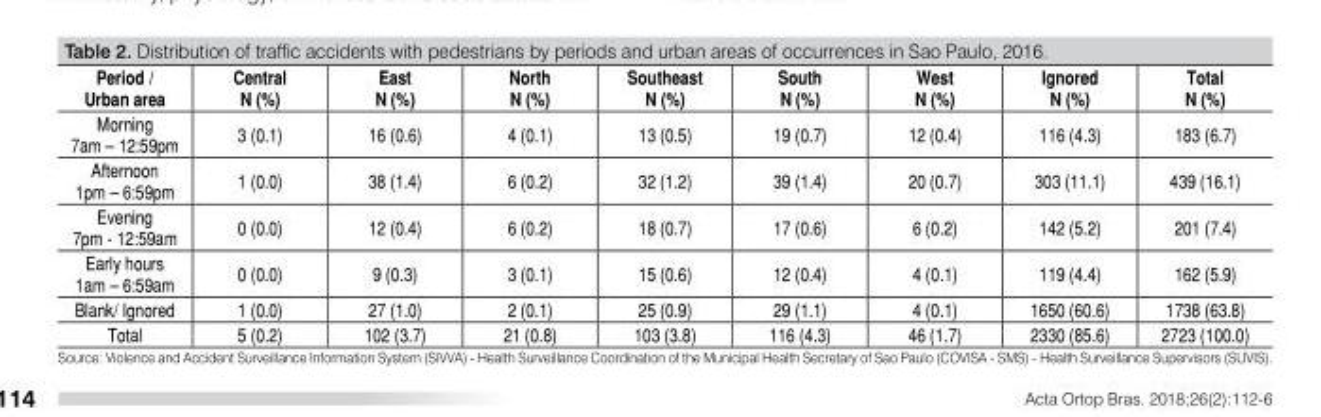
<table><thead><tr><td>Period / Urban area</td><td>Central N (%)</td><td>East N (%)</td><td>North N (%)</td><td>Southeast N (%)</td><td>South N (%)</td><td>West N (%)</td><td>Ignored N (%)</td><td>Total N (%)</td></tr></thead><tbody><tr><td>Morning 7am – 12:59pm</td><td>3 (0.1)</td><td>16 (0.6)</td><td>4 (0.1)</td><td>13 (0.5)</td><td>19 (0.7)</td><td>12 (0.4)</td><td>116 (4.3)</td><td>183 (6.7)</td></tr><tr><td>Afternoon 1pm – 6:59pm</td><td>1 (0.0)</td><td>38 (1.4)</td><td>6 (0.2)</td><td>32 (1.2)</td><td>39 (1.4)</td><td>20 (0.7)</td><td>303 (11.1)</td><td>439 (16.1)</td></tr><tr><td>Evening 7pm - 12:59am</td><td>0 (0.0)</td><td>12 (0.4)</td><td>6 (0.2)</td><td>18 (0.7)</td><td>17 (0.6)</td><td>6 (0.2)</td><td>142 (5.2)</td><td>201 (7.4)</td></tr><tr><td>Early hours 1am – 6:59am</td><td>0 (0.0)</td><td>9 (0.3)</td><td>3 (0.1)</td><td>15 (0.6)</td><td>12 (0.4)</td><td>4 (0.1)</td><td>119 (4.4)</td><td>162 (5.9)</td></tr><tr><td>Blank/ Ignored</td><td>1 (0.0)</td><td>27 (1.0)</td><td>2 (0.1)</td><td>25 (0.9)</td><td>29 (1.1)</td><td>4 (0.1)</td><td>1650 (60.6)</td><td>1738 (63.8)</td></tr><tr><td>Total</td><td>5 (0.2)</td><td>102 (3.7)</td><td>21 (0.8)</td><td>103 (3.8)</td><td>116 (4.3)</td><td>46 (1.7)</td><td>2330 (85.6)</td><td>2723 (100.0)</td></tr></tbody></table>